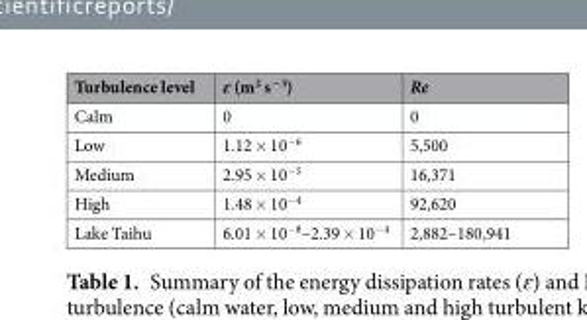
<table><thead><tr><td>Turbulence level</td><td>ɛ (m<sup>2</sup> s<sup>−3</sup>)</td><td>Re</td></tr></thead><tbody><tr><td>Calm</td><td>0</td><td>0</td></tr><tr><td>Low</td><td>1.12 × 10<sup>−6</sup></td><td>5,500</td></tr><tr><td>Medium</td><td>2.95 × 10<sup>−5</sup></td><td>16,371</td></tr><tr><td>High</td><td>1.48 × 10<sup>−4</sup></td><td>92,620</td></tr><tr><td>Lake Taihu</td><td>6.01 × 10<sup>−8</sup>–2.39 × 10<sup>−4</sup></td><td>2,882–180,941</td></tr></tbody></table>